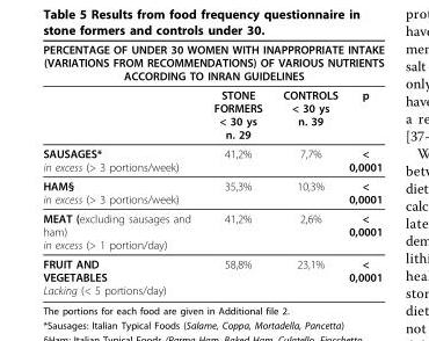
<table><thead><tr><td colspan="4">PERCENTAGE OF UNDER 30 WOMEN WITH INAPPROPRIATE INTAKE (VARIATIONS FROM RECOMMENDATIONS) OF VARIOUS NUTRIENTS ACCORDING TO INRAN GUIDELINES</td></tr><tr><td></td><td>STONE FORMERS &lt; 30 ys n. 29</td><td>CONTROLS &lt; 30 ys n. 39</td><td>p</td></tr></thead><tbody><tr><td>SAUSAGES* in excess (&gt; 3 portions/week)</td><td>41,2%</td><td>7,7%</td><td>&lt; 0,0001</td></tr><tr><td>HAM§ in excess (&gt; 3 portions/week)</td><td>35,3%</td><td>10,3%</td><td>&lt; 0,0001</td></tr><tr><td>MEAT (excluding sausages and ham) in excess (&gt; 1 portion/day)</td><td>41,2%</td><td>2,6%</td><td>&lt; 0,0001</td></tr><tr><td>FRUIT AND VEGETABLES Lacking (&lt; 5 portions/day)</td><td>58,8%</td><td>23,1%</td><td>&lt; 0,0001</td></tr></tbody></table>